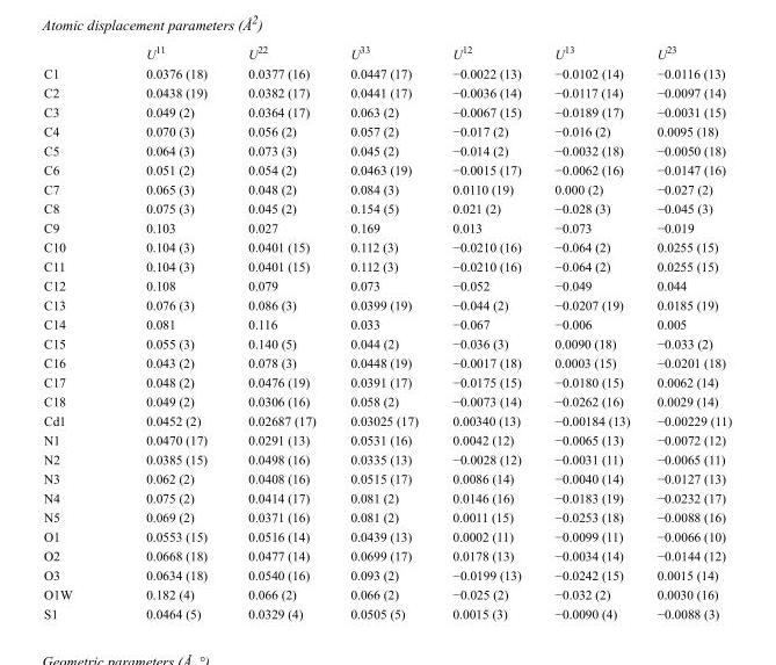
<table><thead><tr><td></td><td>U<sup>11</sup></td><td>U<sup>22</sup></td><td>U<sup>33</sup></td><td>U<sup>12</sup></td><td>U<sup>13</sup></td><td>U<sup>23</sup></td></tr></thead><tbody><tr><td>C1</td><td>0.0376 (18)</td><td>0.0377 (16)</td><td>0.0447 (17)</td><td>−0.0022 (13)</td><td>−0.0102 (14)</td><td>−0.0116 (13)</td></tr><tr><td>C2</td><td>0.0438 (19)</td><td>0.0382 (17)</td><td>0.0441 (17)</td><td>−0.0036 (14)</td><td>−0.0117 (14)</td><td>−0.0097 (14)</td></tr><tr><td>C3</td><td>0.049 (2)</td><td>0.0364 (17)</td><td>0.063 (2)</td><td>−0.0067 (15)</td><td>−0.0189 (17)</td><td>−0.0031 (15)</td></tr><tr><td>C4</td><td>0.070 (3)</td><td>0.056 (2)</td><td>0.057 (2)</td><td>−0.017 (2)</td><td>−0.016 (2)</td><td>0.0095 (18)</td></tr><tr><td>C5</td><td>0.064 (3)</td><td>0.073 (3)</td><td>0.045 (2)</td><td>−0.014 (2)</td><td>−0.0032 (18)</td><td>−0.0050 (18)</td></tr><tr><td>C6</td><td>0.051 (2)</td><td>0.054 (2)</td><td>0.0463 (19)</td><td>−0.0015 (17)</td><td>−0.0062 (16)</td><td>−0.0147 (16)</td></tr><tr><td>C7</td><td>0.065 (3)</td><td>0.048 (2)</td><td>0.084 (3)</td><td>0.0110 (19)</td><td>0.000 (2)</td><td>−0.027 (2)</td></tr><tr><td>C8</td><td>0.075 (3)</td><td>0.045 (2)</td><td>0.154 (5)</td><td>0.021 (2)</td><td>−0.028 (3)</td><td>−0.045 (3)</td></tr><tr><td>C9</td><td>0.103</td><td>0.027</td><td>0.169</td><td>0.013</td><td>−0.073</td><td>−0.019</td></tr><tr><td>C10</td><td>0.104 (3)</td><td>0.0401 (15)</td><td>0.112 (3)</td><td>−0.0210 (16)</td><td>−0.064 (2)</td><td>0.0255 (15)</td></tr><tr><td>C11</td><td>0.104 (3)</td><td>0.0401 (15)</td><td>0.112 (3)</td><td>−0.0210 (16)</td><td>−0.064 (2)</td><td>0.0255 (15)</td></tr><tr><td>C12</td><td>0.108</td><td>0.079</td><td>0.073</td><td>−0.052</td><td>−0.049</td><td>0.044</td></tr><tr><td>C13</td><td>0.076 (3)</td><td>0.086 (3)</td><td>0.0399 (19)</td><td>−0.044 (2)</td><td>−0.0207 (19)</td><td>0.0185 (19)</td></tr><tr><td>C14</td><td>0.081</td><td>0.116</td><td>0.033</td><td>−0.067</td><td>−0.006</td><td>0.005</td></tr><tr><td>C15</td><td>0.055 (3)</td><td>0.140 (5)</td><td>0.044 (2)</td><td>−0.036 (3)</td><td>0.0090 (18)</td><td>−0.033 (2)</td></tr><tr><td>C16</td><td>0.043 (2)</td><td>0.078 (3)</td><td>0.0448 (19)</td><td>−0.0017 (18)</td><td>0.0003 (15)</td><td>−0.0201 (18)</td></tr><tr><td>C17</td><td>0.048 (2)</td><td>0.0476 (19)</td><td>0.0391 (17)</td><td>−0.0175 (15)</td><td>−0.0180 (15)</td><td>0.0062 (14)</td></tr><tr><td>C18</td><td>0.049 (2)</td><td>0.0306 (16)</td><td>0.058 (2)</td><td>−0.0073 (14)</td><td>−0.0262 (16)</td><td>0.0029 (14)</td></tr><tr><td>Cd1</td><td>0.0452 (2)</td><td>0.02687 (17)</td><td>0.03025 (17)</td><td>0.00340 (13)</td><td>−0.00184 (13)</td><td>−0.00229 (11)</td></tr><tr><td>N1</td><td>0.0470 (17)</td><td>0.0291 (13)</td><td>0.0531 (16)</td><td>0.0042 (12)</td><td>−0.0065 (13)</td><td>−0.0072 (12)</td></tr><tr><td>N2</td><td>0.0385 (15)</td><td>0.0498 (16)</td><td>0.0335 (13)</td><td>−0.0028 (12)</td><td>−0.0031 (11)</td><td>−0.0065 (11)</td></tr><tr><td>N3</td><td>0.062 (2)</td><td>0.0408 (16)</td><td>0.0515 (17)</td><td>0.0086 (14)</td><td>−0.0040 (14)</td><td>−0.0127 (13)</td></tr><tr><td>N4</td><td>0.075 (2)</td><td>0.0414 (17)</td><td>0.081 (2)</td><td>0.0146 (16)</td><td>−0.0183 (19)</td><td>−0.0232 (17)</td></tr><tr><td>N5</td><td>0.069 (2)</td><td>0.0371 (16)</td><td>0.081 (2)</td><td>0.0011 (15)</td><td>−0.0253 (18)</td><td>−0.0088 (16)</td></tr><tr><td>O1</td><td>0.0553 (15)</td><td>0.0516 (14)</td><td>0.0439 (13)</td><td>0.0002 (11)</td><td>−0.0099 (11)</td><td>−0.0066 (10)</td></tr><tr><td>O2</td><td>0.0668 (18)</td><td>0.0477 (14)</td><td>0.0699 (17)</td><td>0.0178 (13)</td><td>−0.0034 (14)</td><td>−0.0144 (12)</td></tr><tr><td>O3</td><td>0.0634 (18)</td><td>0.0540 (16)</td><td>0.093 (2)</td><td>−0.0199 (13)</td><td>−0.0242 (15)</td><td>0.0015 (14)</td></tr><tr><td>O1W</td><td>0.182 (4)</td><td>0.066 (2)</td><td>0.066 (2)</td><td>−0.025 (2)</td><td>−0.032 (2)</td><td>0.0030 (16)</td></tr><tr><td>S1</td><td>0.0464 (5)</td><td>0.0329 (4)</td><td>0.0505 (5)</td><td>0.0015 (3)</td><td>−0.0090 (4)</td><td>−0.0088 (3)</td></tr></tbody></table>